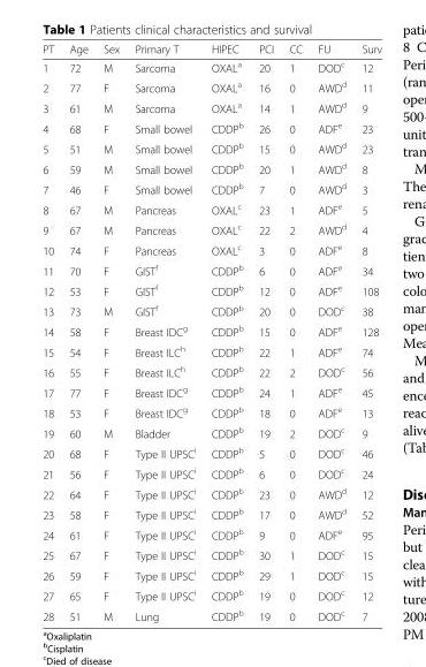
<table><thead><tr><td>PT</td><td>Age</td><td>Sex</td><td>Primary T</td><td>HIPEC</td><td>PCI</td><td>CC</td><td>FU</td><td>Surv</td></tr></thead><tbody><tr><td>1</td><td>72</td><td>M</td><td>Sarcoma</td><td>OXAL<sup>a</sup></td><td>20</td><td>1</td><td>DOD<sup>c</sup></td><td>12</td></tr><tr><td>2</td><td>77</td><td>F</td><td>Sarcoma</td><td>OXAL<sup>a</sup></td><td>16</td><td>0</td><td>AWD<sup>d</sup></td><td>11</td></tr><tr><td>3</td><td>61</td><td>M</td><td>Sarcoma</td><td>OXAL<sup>a</sup></td><td>14</td><td>1</td><td>AWD<sup>d</sup></td><td>9</td></tr><tr><td>4</td><td>68</td><td>F</td><td>Small bowel</td><td>CDDP<sup>b</sup></td><td>26</td><td>0</td><td>ADF<sup>e</sup></td><td>23</td></tr><tr><td>5</td><td>51</td><td>M</td><td>Small bowel</td><td>CDDP<sup>b</sup></td><td>15</td><td>0</td><td>AWD<sup>d</sup></td><td>23</td></tr><tr><td>6</td><td>59</td><td>M</td><td>Small bowel</td><td>CDDP<sup>b</sup></td><td>20</td><td>1</td><td>AWD<sup>d</sup></td><td>8</td></tr><tr><td>7</td><td>46</td><td>F</td><td>Small bowel</td><td>CDDP<sup>b</sup></td><td>7</td><td>0</td><td>AWD<sup>d</sup></td><td>3</td></tr><tr><td>8</td><td>67</td><td>M</td><td>Pancreas</td><td>OXAL<sup>c</sup></td><td>23</td><td>1</td><td>ADF<sup>e</sup></td><td>5</td></tr><tr><td>9</td><td>67</td><td>M</td><td>Pancreas</td><td>OXAL<sup>c</sup></td><td>22</td><td>2</td><td>AWD<sup>d</sup></td><td>4</td></tr><tr><td>10</td><td>74</td><td>F</td><td>Pancreas</td><td>OXAL<sup>c</sup></td><td>3</td><td>0</td><td>ADF<sup>e</sup></td><td>8</td></tr><tr><td>11</td><td>70</td><td>F</td><td>GIST<sup>f</sup></td><td>CDDP<sup>b</sup></td><td>6</td><td>0</td><td>ADF<sup>e</sup></td><td>34</td></tr><tr><td>12</td><td>53</td><td>F</td><td>GIST<sup>f</sup></td><td>CDDP<sup>b</sup></td><td>12</td><td>0</td><td>ADF<sup>e</sup></td><td>108</td></tr><tr><td>13</td><td>73</td><td>M</td><td>GIST<sup>f</sup></td><td>CDDP<sup>b</sup></td><td>20</td><td>0</td><td>DOD<sup>c</sup></td><td>38</td></tr><tr><td>14</td><td>58</td><td>F</td><td>Breast IDC<sup>g</sup></td><td>CDDP<sup>b</sup></td><td>15</td><td>0</td><td>ADF<sup>e</sup></td><td>128</td></tr><tr><td>15</td><td>54</td><td>F</td><td>Breast ILC<sup>h</sup></td><td>CDDP<sup>b</sup></td><td>22</td><td>1</td><td>ADF<sup>e</sup></td><td>74</td></tr><tr><td>16</td><td>55</td><td>F</td><td>Breast ILC<sup>h</sup></td><td>CDDP<sup>b</sup></td><td>22</td><td>2</td><td>DOD<sup>c</sup></td><td>56</td></tr><tr><td>17</td><td>77</td><td>F</td><td>Breast IDC<sup>g</sup></td><td>CDDP<sup>b</sup></td><td>24</td><td>1</td><td>ADF<sup>e</sup></td><td>45</td></tr><tr><td>18</td><td>53</td><td>F</td><td>Breast IDC<sup>g</sup></td><td>CDDP<sup>b</sup></td><td>18</td><td>0</td><td>ADF<sup>e</sup></td><td>13</td></tr><tr><td>19</td><td>60</td><td>M</td><td>Bladder</td><td>CDDP<sup>b</sup></td><td>19</td><td>2</td><td>DOD<sup>c</sup></td><td>9</td></tr><tr><td>20</td><td>68</td><td>F</td><td>Type II UPSC<sup>i</sup></td><td>CDDP<sup>b</sup></td><td>5</td><td>0</td><td>DOD<sup>c</sup></td><td>46</td></tr><tr><td>21</td><td>56</td><td>F</td><td>Type II UPSC<sup>i</sup></td><td>CDDP<sup>b</sup></td><td>6</td><td>0</td><td>DOD<sup>c</sup></td><td>24</td></tr><tr><td>22</td><td>64</td><td>F</td><td>Type II UPSC<sup>i</sup></td><td>CDDP<sup>b</sup></td><td>23</td><td>0</td><td>AWD<sup>d</sup></td><td>12</td></tr><tr><td>23</td><td>58</td><td>F</td><td>Type II UPSC<sup>i</sup></td><td>CDDP<sup>b</sup></td><td>17</td><td>0</td><td>AWD<sup>d</sup></td><td>52</td></tr><tr><td>24</td><td>61</td><td>F</td><td>Type II UPSC<sup>i</sup></td><td>CDDP<sup>b</sup></td><td>9</td><td>0</td><td>ADF<sup>e</sup></td><td>95</td></tr><tr><td>25</td><td>67</td><td>F</td><td>Type II UPSC<sup>i</sup></td><td>CDDP<sup>b</sup></td><td>30</td><td>1</td><td>DOD<sup>c</sup></td><td>15</td></tr><tr><td>26</td><td>59</td><td>F</td><td>Type II UPSC<sup>i</sup></td><td>CDDP<sup>b</sup></td><td>29</td><td>1</td><td>DOD<sup>c</sup></td><td>15</td></tr><tr><td>27</td><td>65</td><td>F</td><td>Type II UPSC<sup>i</sup></td><td>CDDP<sup>b</sup></td><td>19</td><td>0</td><td>DOD<sup>c</sup></td><td>12</td></tr><tr><td>28</td><td>51</td><td>M</td><td>Lung</td><td>CDDP<sup>b</sup></td><td>19</td><td>0</td><td>DOD<sup>c</sup></td><td>7</td></tr></tbody></table>